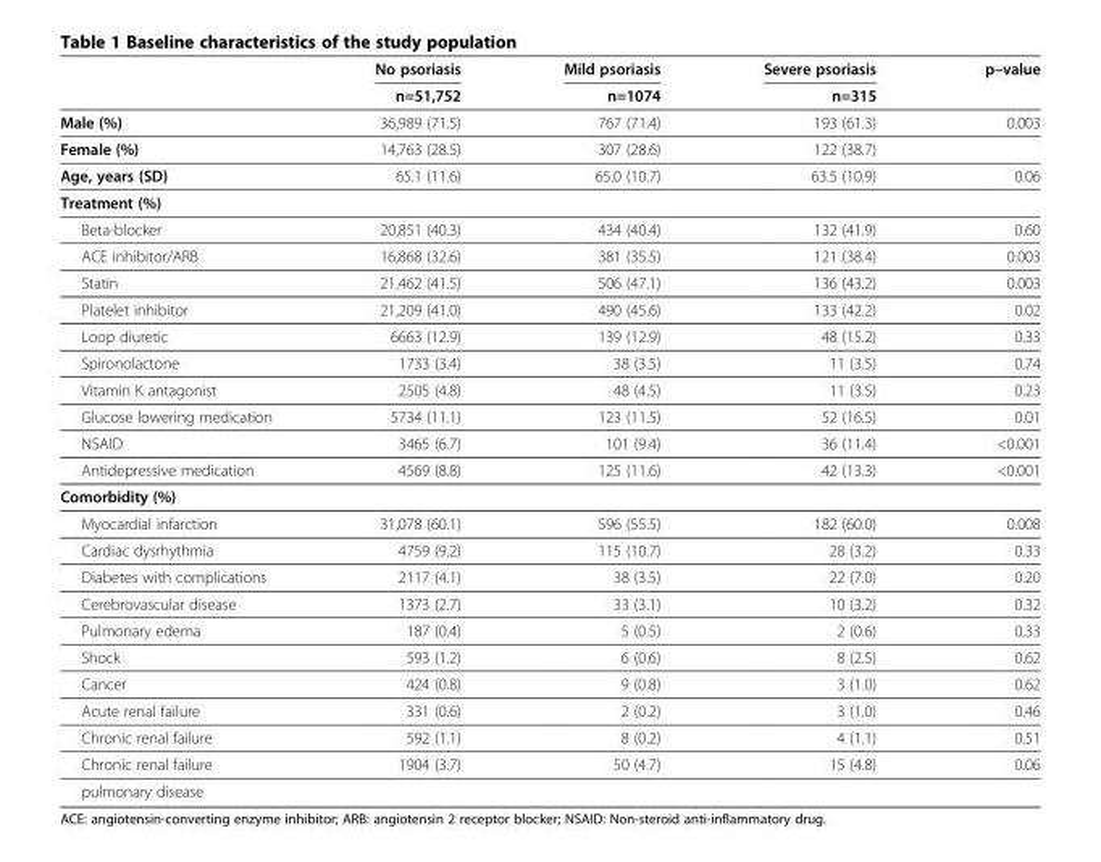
<table><thead><tr><td rowspan="2"></td><td rowspan="2">No psoriasis n=51,752</td><td rowspan="2">Mild psoriasis n=1074</td><td rowspan="2">Severe psoriasis n=315</td><td rowspan="2">p–value</td></tr><tr></tr></thead><tbody><tr><td>Male (%)</td><td>36,989 (71.5)</td><td>767 (71.4)</td><td>193 (61.3)</td><td>0.003</td></tr><tr><td>Female (%)</td><td>14,763 (28.5)</td><td>307 (28.6)</td><td>122 (38.7)</td><td></td></tr><tr><td>Age, years (SD)</td><td>65.1 (11.6)</td><td>65.0 (10.7)</td><td>63.5 (10.9)</td><td>0.06</td></tr><tr><td colspan="5">Treatment (%)</td></tr><tr><td>Beta-blocker</td><td>20,851 (40.3)</td><td>434 (40.4)</td><td>132 (41.9)</td><td>0.60</td></tr><tr><td>ACE inhibitor/ARB</td><td>16,868 (32.6)</td><td>381 (35.5)</td><td>121 (38.4)</td><td>0.003</td></tr><tr><td>Statin</td><td>21,462 (41.5)</td><td>506 (47.1)</td><td>136 (43.2)</td><td>0.003</td></tr><tr><td>Platelet inhibitor</td><td>21,209 (41.0)</td><td>490 (45.6)</td><td>133 (42.2)</td><td>0.02</td></tr><tr><td>Loop diuretic</td><td>6663 (12.9)</td><td>139 (12.9)</td><td>48 (15.2)</td><td>0.33</td></tr><tr><td>Spironolactone</td><td>1733 (3.4)</td><td>38 (3.5)</td><td>11 (3.5)</td><td>0.74</td></tr><tr><td>Vitamin K antagonist</td><td>2505 (4.8)</td><td>48 (4.5)</td><td>11 (3.5)</td><td>0.23</td></tr><tr><td>Glucose lowering medication</td><td>5734 (11.1)</td><td>123 (11.5)</td><td>52 (16.5)</td><td>0.01</td></tr><tr><td>NSAID</td><td>3465 (6.7)</td><td>101 (9.4)</td><td>36 (11.4)</td><td>&lt;0.001</td></tr><tr><td>Antidepressive medication</td><td>4569 (8.8)</td><td>125 (11.6)</td><td>42 (13.3)</td><td>&lt;0.001</td></tr><tr><td colspan="5">Comorbidity (%)</td></tr><tr><td>Myocardial infarction</td><td>31,078 (60.1)</td><td>596 (55.5)</td><td>182 (60.0)</td><td>0.008</td></tr><tr><td>Cardiac dysrhythmia</td><td>4759 (9.2)</td><td>115 (10.7)</td><td>28 (3.2)</td><td>0.33</td></tr><tr><td>Diabetes with complications</td><td>2117 (4.1)</td><td>38 (3.5)</td><td>22 (7.0)</td><td>0.20</td></tr><tr><td>Cerebrovascular disease</td><td>1373 (2.7)</td><td>33 (3.1)</td><td>10 (3.2)</td><td>0.32</td></tr><tr><td>Pulmonary edema</td><td>187 (0.4)</td><td>5 (0.5)</td><td>2 (0.6)</td><td>0.33</td></tr><tr><td>Shock</td><td>593 (1.2)</td><td>6 (0.6)</td><td>8 (2.5)</td><td>0.62</td></tr><tr><td>Cancer</td><td>424 (0.8)</td><td>9 (0.8)</td><td>3 (1.0)</td><td>0.62</td></tr><tr><td>Acute renal failure</td><td>331 (0.6)</td><td>2 (0.2)</td><td>3 (1.0)</td><td>0.46</td></tr><tr><td>Chronic renal failure</td><td>592 (1.1)</td><td>8 (0.2)</td><td>4 (1.1)</td><td>0.51</td></tr><tr><td>Chronic renal failure</td><td>1904 (3.7)</td><td>50 (4.7)</td><td>15 (4.8)</td><td>0.06</td></tr><tr><td>pulmonary disease</td><td></td><td></td><td></td><td></td></tr></tbody></table>